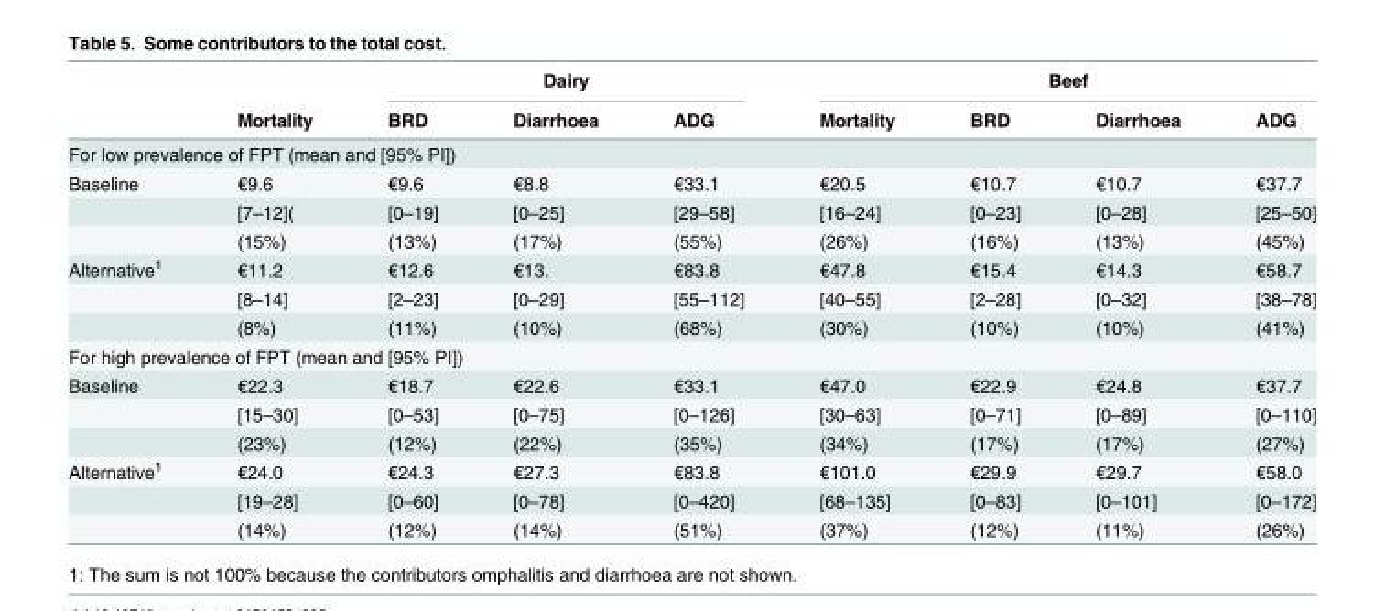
<table><thead><tr><td rowspan="2"></td><td rowspan="2">Mortality</td><td colspan="3">Dairy</td><td colspan="4">Beef</td></tr><tr><td>BRD</td><td>Diarrhoea</td><td>ADG</td><td>Mortality</td><td>BRD</td><td>Diarrhoea</td><td>ADG</td></tr></thead><tbody><tr><td colspan="9">For low prevalence of FPT (mean and [95% PI])</td></tr><tr><td rowspan="3">Baseline</td><td>€9.6</td><td>€9.6</td><td>€8.8</td><td>€33.1</td><td>€20.5</td><td>€10.7</td><td>€10.7</td><td>€37.7</td></tr><tr><td>[7–12](</td><td>[0–19]</td><td>[0–25]</td><td>[29–58]</td><td>[16–24]</td><td>[0–23]</td><td>[0–28]</td><td>[25–50]</td></tr><tr><td>(15%)</td><td>(13%)</td><td>(17%)</td><td>(55%)</td><td>(26%)</td><td>(16%)</td><td>(13%)</td><td>(45%)</td></tr><tr><td rowspan="3">Alternative<sup>1</sup></td><td>€11.2</td><td>€12.6</td><td>€13.</td><td>€83.8</td><td>€47.8</td><td>€15.4</td><td>€14.3</td><td>€58.7</td></tr><tr><td>[8–14]</td><td>[2–23]</td><td>[0–29]</td><td>[55–112]</td><td>[40–55]</td><td>[2–28]</td><td>[0–32]</td><td>[38–78]</td></tr><tr><td>(8%)</td><td>(11%)</td><td>(10%)</td><td>(68%)</td><td>(30%)</td><td>(10%)</td><td>(10%)</td><td>(41%)</td></tr><tr><td colspan="9">For high prevalence of FPT (mean and [95% PI])</td></tr><tr><td rowspan="3">Baseline</td><td>€22.3</td><td>€18.7</td><td>€22.6</td><td>€33.1</td><td>€47.0</td><td>€22.9</td><td>€24.8</td><td>€37.7</td></tr><tr><td>[15–30]</td><td>[0–53]</td><td>[0–75]</td><td>[0–126]</td><td>[30–63]</td><td>[0–71]</td><td>[0–89]</td><td>[0–110]</td></tr><tr><td>(23%)</td><td>(12%)</td><td>(22%)</td><td>(35%)</td><td>(34%)</td><td>(17%)</td><td>(17%)</td><td>(27%)</td></tr><tr><td rowspan="3">Alternative<sup>1</sup></td><td>€24.0</td><td>€24.3</td><td>€27.3</td><td>€83.8</td><td>€101.0</td><td>€29.9</td><td>€29.7</td><td>€58.0</td></tr><tr><td>[19–28]</td><td>[0–60]</td><td>[0–78]</td><td>[0–420]</td><td>[68–135]</td><td>[0–83]</td><td>[0–101]</td><td>[0–172]</td></tr><tr><td>(14%)</td><td>(12%)</td><td>(14%)</td><td>(51%)</td><td>(37%)</td><td>(12%)</td><td>(11%)</td><td>(26%)</td></tr></tbody></table>